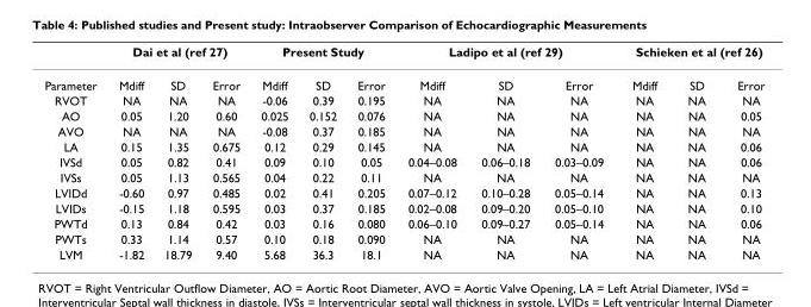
<table><thead><tr><td rowspan="2">Parameter</td><td colspan="3">Dai et al (ref 27)</td><td colspan="3">Present Study</td><td colspan="3">Ladipo et al (ref 29)</td><td colspan="3">Schieken et al (ref 26)</td></tr><tr><td>Mdiff</td><td>SD</td><td>Error</td><td>Mdiff</td><td>SD</td><td>Error</td><td>Mdiff</td><td>SD</td><td>Error</td><td>Mdiff</td><td>SD</td><td>Error</td></tr></thead><tbody><tr><td>RVOT</td><td>NA</td><td>NA</td><td>NA</td><td>-0.06</td><td>0.39</td><td>0.195</td><td>NA</td><td>NA</td><td>NA</td><td>NA</td><td>NA</td><td>NA</td></tr><tr><td>AO</td><td>0.05</td><td>1.20</td><td>0.60</td><td>0.025</td><td>0.152</td><td>0.076</td><td>NA</td><td>NA</td><td>NA</td><td>NA</td><td>NA</td><td>0.05</td></tr><tr><td>AVO</td><td>NA</td><td>NA</td><td>NA</td><td>-0.08</td><td>0.37</td><td>0.185</td><td>NA</td><td>NA</td><td>NA</td><td>NA</td><td>NA</td><td>NA</td></tr><tr><td>LA</td><td>0.15</td><td>1.35</td><td>0.675</td><td>0.12</td><td>0.29</td><td>0.145</td><td>NA</td><td>NA</td><td>NA</td><td>NA</td><td>NA</td><td>0.06</td></tr><tr><td>IVSd</td><td>0.05</td><td>0.82</td><td>0.41</td><td>0.09</td><td>0.10</td><td>0.05</td><td>0.04–0.08</td><td>0.06–0.18</td><td>0.03–0.09</td><td>NA</td><td>NA</td><td>0.06</td></tr><tr><td>IVSs</td><td>0.05</td><td>1.13</td><td>0.565</td><td>0.04</td><td>0.22</td><td>0.11</td><td>NA</td><td>NA</td><td>NA</td><td>NA</td><td>NA</td><td>NA</td></tr><tr><td>LVIDd</td><td>-0.60</td><td>0.97</td><td>0.485</td><td>0.02</td><td>0.41</td><td>0.205</td><td>0.07–0.12</td><td>0.10–0.28</td><td>0.05–0.14</td><td>NA</td><td>NA</td><td>0.13</td></tr><tr><td>LVIDs</td><td>-0.15</td><td>1.18</td><td>0.595</td><td>0.03</td><td>0.37</td><td>0.185</td><td>0.02–0.08</td><td>0.09–0.20</td><td>0.05–0.10</td><td>NA</td><td>NA</td><td>0.10</td></tr><tr><td>PWTd</td><td>0.13</td><td>0.84</td><td>0.42</td><td>0.03</td><td>0.16</td><td>0.080</td><td>0.06–0.10</td><td>0.09–0.27</td><td>0.05–0.14</td><td>NA</td><td>NA</td><td>0.06</td></tr><tr><td>PWTs</td><td>0.33</td><td>1.14</td><td>0.57</td><td>0.10</td><td>0.18</td><td>0.090</td><td>NA</td><td>NA</td><td>NA</td><td>NA</td><td>NA</td><td>NA</td></tr><tr><td>LVM</td><td>-1.82</td><td>18.79</td><td>9.40</td><td>5.68</td><td>36.3</td><td>18.1</td><td>NA</td><td>NA</td><td>NA</td><td>NA</td><td>NA</td><td>NA</td></tr></tbody></table>